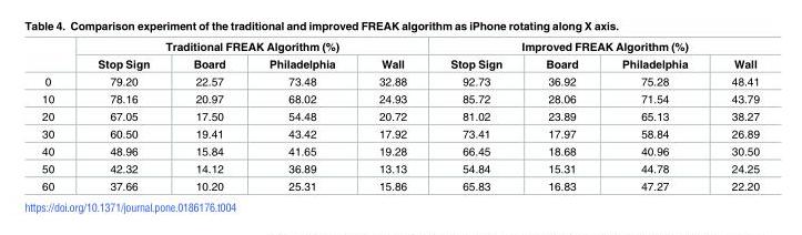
<table><thead><tr><td rowspan="2"></td><td colspan="4">Traditional FREAK Algorithm (%)</td><td colspan="4">Improved FREAK Algorithm (%)</td></tr><tr><td>Stop Sign</td><td>Board</td><td>Philadelphia</td><td>Wall</td><td>Stop Sign</td><td>Board</td><td>Philadelphia</td><td>Wall</td></tr></thead><tbody><tr><td>0</td><td>79.20</td><td>22.57</td><td>73.48</td><td>32.88</td><td>92.73</td><td>36.92</td><td>75.28</td><td>48.41</td></tr><tr><td>10</td><td>78.16</td><td>20.97</td><td>68.02</td><td>24.93</td><td>85.72</td><td>28.06</td><td>71.54</td><td>43.79</td></tr><tr><td>20</td><td>67.05</td><td>17.50</td><td>54.48</td><td>20.72</td><td>81.02</td><td>23.89</td><td>65.13</td><td>38.27</td></tr><tr><td>30</td><td>60.50</td><td>19.41</td><td>43.42</td><td>17.92</td><td>73.41</td><td>17.97</td><td>58.84</td><td>26.89</td></tr><tr><td>40</td><td>48.96</td><td>15.84</td><td>41.65</td><td>19.28</td><td>66.45</td><td>18.68</td><td>40.96</td><td>30.50</td></tr><tr><td>50</td><td>42.32</td><td>14.12</td><td>36.89</td><td>13.13</td><td>54.84</td><td>15.31</td><td>44.78</td><td>24.25</td></tr><tr><td>60</td><td>37.66</td><td>10.20</td><td>25.31</td><td>15.86</td><td>65.83</td><td>16.83</td><td>47.27</td><td>22.20</td></tr></tbody></table>